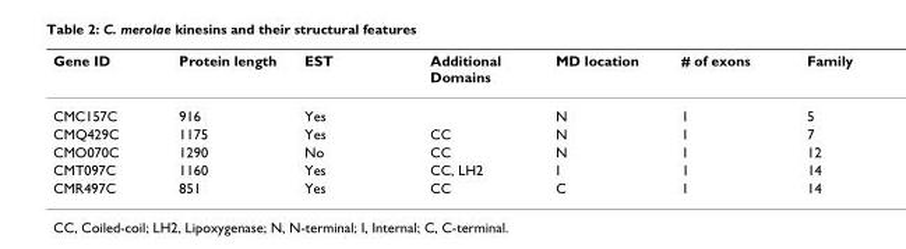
<table><thead><tr><td>Gene ID</td><td>Protein length</td><td>EST</td><td>Additional Domains</td><td>MD location</td><td># of exons</td><td>Family</td></tr></thead><tbody><tr><td>CMC157C</td><td>916</td><td>Yes</td><td></td><td>N</td><td>1</td><td>5</td></tr><tr><td>CMQ429C</td><td>1175</td><td>Yes</td><td>CC</td><td>N</td><td>1</td><td>7</td></tr><tr><td>CMO070C</td><td>1290</td><td>No</td><td>CC</td><td>N</td><td>1</td><td>12</td></tr><tr><td>CMT097C</td><td>1160</td><td>Yes</td><td>CC, LH2</td><td>I</td><td>1</td><td>14</td></tr><tr><td>CMR497C</td><td>851</td><td>Yes</td><td>CC</td><td>C</td><td>1</td><td>14</td></tr></tbody></table>